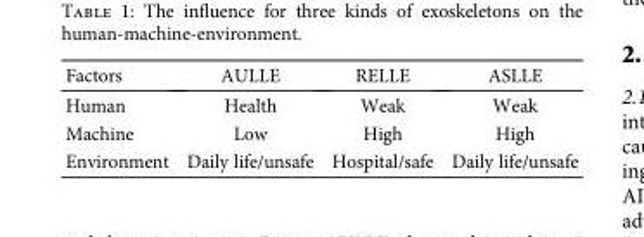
<table><thead><tr><td>Factors</td><td>AULLE</td><td>RELLE</td><td>ASLLE</td></tr></thead><tbody><tr><td>Human</td><td>Health</td><td>Weak</td><td>Weak</td></tr><tr><td>Machine</td><td>Low</td><td>High</td><td>High</td></tr><tr><td>Environment</td><td>Daily life/unsafe</td><td>Hospital/safe</td><td>Daily life/unsafe</td></tr></tbody></table>